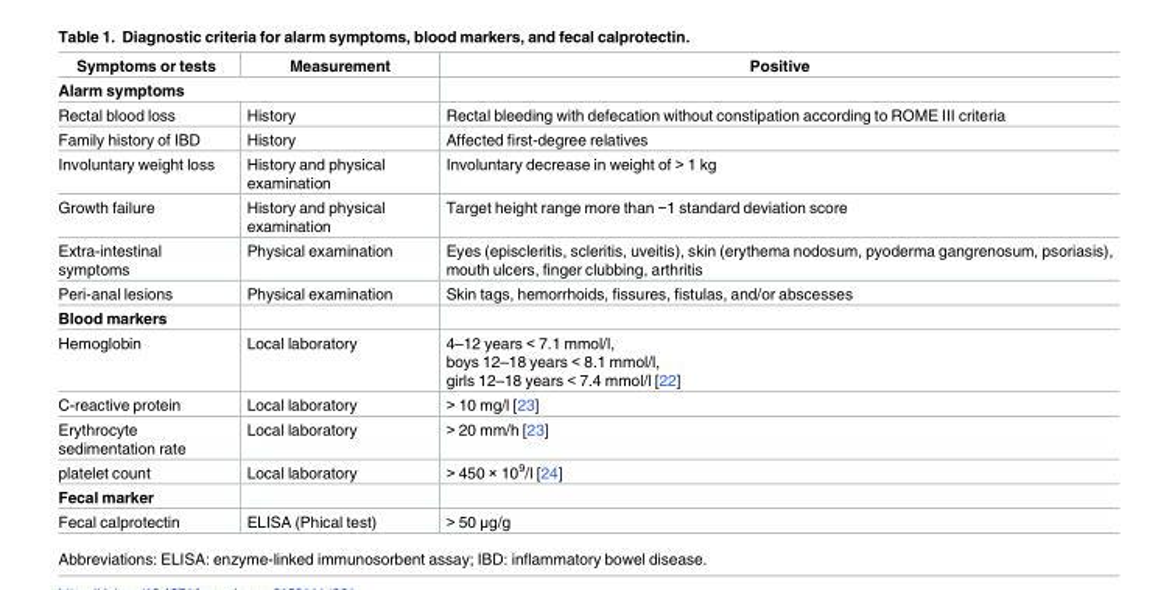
<table><thead><tr><td>Symptoms or tests</td><td>Measurement</td><td>Positive</td></tr></thead><tbody><tr><td colspan="3">Alarm symptoms</td></tr><tr><td>Rectal blood loss</td><td>History</td><td>Rectal bleeding with defecation without constipation according to ROME III criteria</td></tr><tr><td>Family history of IBD</td><td>History</td><td>Affected first-degree relatives</td></tr><tr><td>Involuntary weight loss</td><td>History and physical examination</td><td>Involuntary decrease in weight of &gt; 1 kg</td></tr><tr><td>Growth failure</td><td>History and physical examination</td><td>Target height range more than −1 standard deviation score</td></tr><tr><td>Extra-intestinal symptoms</td><td>Physical examination</td><td>Eyes (episcleritis, scleritis, uveitis), skin (erythema nodosum, pyoderma gangrenosum, psoriasis), mouth ulcers, finger clubbing, arthritis</td></tr><tr><td>Peri-anal lesions</td><td>Physical examination</td><td>Skin tags, hemorrhoids, fissures, fistulas, and/or abscesses</td></tr><tr><td colspan="3">Blood markers</td></tr><tr><td>Hemoglobin</td><td>Local laboratory</td><td>4–12 years &lt; 7.1 mmol/l, boys 12–18 years &lt; 8.1 mmol/l, girls 12–18 years &lt; 7.4 mmol/l [22]</td></tr><tr><td>C-reactive protein</td><td>Local laboratory</td><td>&gt; 10 mg/l [23]</td></tr><tr><td>Erythrocyte sedimentation rate</td><td>Local laboratory</td><td>&gt; 20 mm/h [23]</td></tr><tr><td>platelet count</td><td>Local laboratory</td><td>&gt; 450 × 10<sup>9</sup>/l [24]</td></tr><tr><td colspan="3">Fecal marker</td></tr><tr><td>Fecal calprotectin</td><td>ELISA (Phical test)</td><td>&gt; 50 μg/g</td></tr></tbody></table>